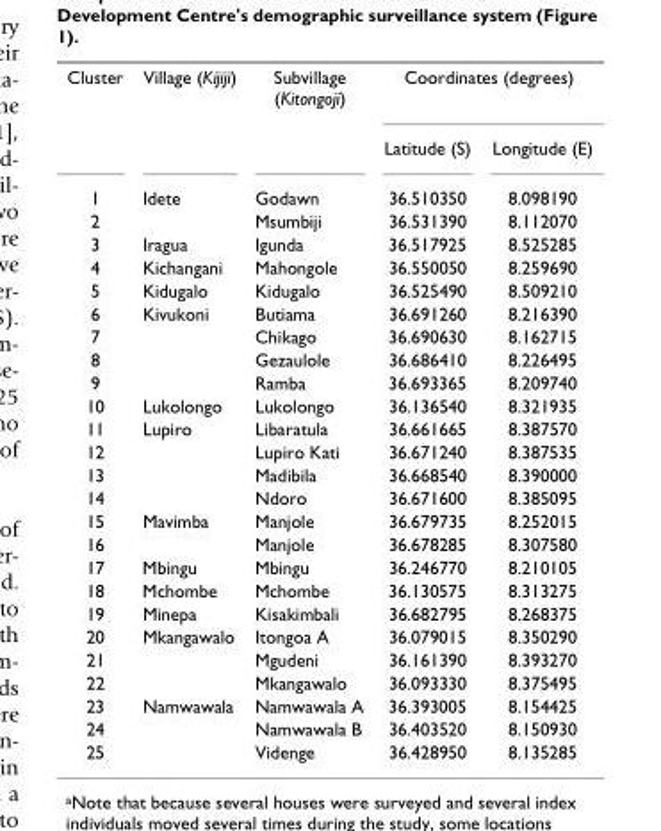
<table><tbody><tr><td rowspan="2">Cluster</td><td>Village (Kijiji)</td><td>Subvillage (Kitongoji)</td><td colspan="2">Coordinates (degrees)</td></tr><tr><td></td><td></td><td>Latitude (S)</td><td>Longitude (E)</td></tr><tr><td>1</td><td>Idete</td><td>Godawn</td><td>36.510350</td><td>8.098190</td></tr><tr><td>2</td><td></td><td>Msumbiji</td><td>36.531390</td><td>8.112070</td></tr><tr><td>3</td><td>Iragua</td><td>Igunda</td><td>36.517925</td><td>8.525285</td></tr><tr><td>4</td><td>Kichangani</td><td>Mahongole</td><td>36.550050</td><td>8.259690</td></tr><tr><td>5</td><td>Kidugalo</td><td>Kidugalo</td><td>36.525490</td><td>8.509210</td></tr><tr><td>6</td><td>Kivukoni</td><td>Butiama</td><td>36.691260</td><td>8.216390</td></tr><tr><td>7</td><td></td><td>Chikago</td><td>36.690630</td><td>8.162715</td></tr><tr><td>8</td><td></td><td>Gezaulole</td><td>36.686410</td><td>8.226495</td></tr><tr><td>9</td><td></td><td>Ramba</td><td>36.693365</td><td>8.209740</td></tr><tr><td>10</td><td>Lukolongo</td><td>Lukolongo</td><td>36.136540</td><td>8.321935</td></tr><tr><td>11</td><td>Lupiro</td><td>Libaratula</td><td>36.661665</td><td>8.387570</td></tr><tr><td>12</td><td></td><td>Lupiro Kati</td><td>36.671240</td><td>8.387535</td></tr><tr><td>13</td><td></td><td>Madibila</td><td>36.668540</td><td>8.390000</td></tr><tr><td>14</td><td></td><td>Ndoro</td><td>36.671600</td><td>8.385095</td></tr><tr><td>15</td><td>Mavimba</td><td>Manjole</td><td>36.679735</td><td>8.252015</td></tr><tr><td>16</td><td></td><td>Manjole</td><td>36.678285</td><td>8.307580</td></tr><tr><td>17</td><td>Mbingu</td><td>Mbingu</td><td>36.246770</td><td>8.210105</td></tr><tr><td>18</td><td>Mchombe</td><td>Mchombe</td><td>36.130575</td><td>8.313275</td></tr><tr><td>19</td><td>Minepa</td><td>Kisakimbali</td><td>36.682795</td><td>8.268375</td></tr><tr><td>20</td><td>Mkangawalo</td><td>Itongoa A</td><td>36.079015</td><td>8.350290</td></tr><tr><td>21</td><td></td><td>Mgudeni</td><td>36.161390</td><td>8.393270</td></tr><tr><td>22</td><td></td><td>Mkangawalo</td><td>36.093330</td><td>8.375495</td></tr><tr><td>23</td><td>Namwawala</td><td>Namwawala A</td><td>36.393005</td><td>8.154425</td></tr><tr><td>24</td><td></td><td>Namwawala B</td><td>36.403520</td><td>8.150930</td></tr><tr><td>25</td><td></td><td>Videnge</td><td>36.428950</td><td>8.135285</td></tr></tbody></table>